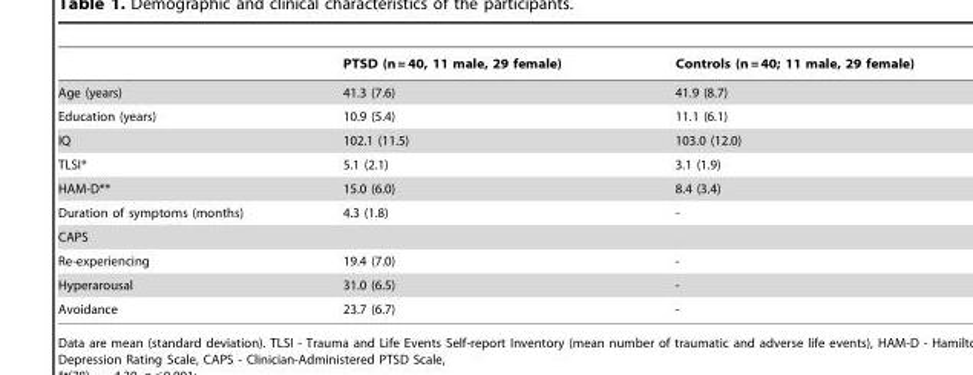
<table><thead><tr><td></td><td>PTSD (n = 40, 11 male, 29 female)</td><td>Controls (n = 40; 11 male, 29 female)</td></tr></thead><tbody><tr><td>Age (years)</td><td>41.3 (7.6)</td><td>41.9 (8.7)</td></tr><tr><td>Education (years)</td><td>10.9 (5.4)</td><td>11.1 (6.1)</td></tr><tr><td>IQ</td><td>102.1 (11.5)</td><td>103.0 (12.0)</td></tr><tr><td>TLSI*</td><td>5.1 (2.1)</td><td>3.1 (1.9)</td></tr><tr><td>HAM-D**</td><td>15.0 (6.0)</td><td>8.4 (3.4)</td></tr><tr><td>Duration of symptoms (months)</td><td>4.3 (1.8)</td><td>-</td></tr><tr><td colspan="3">CAPS</td></tr><tr><td>Re-experiencing</td><td>19.4 (7.0)</td><td>-</td></tr><tr><td>Hyperarousal</td><td>31.0 (6.5)</td><td>-</td></tr><tr><td>Avoidance</td><td>23.7 (6.7)</td><td>-</td></tr></tbody></table>